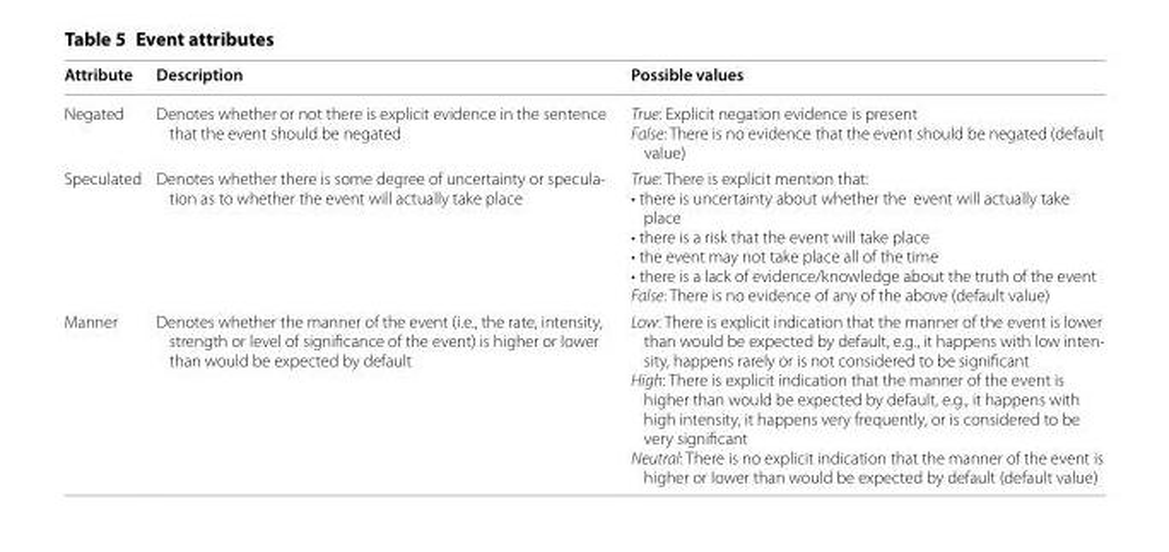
<table><thead><tr><td>Attribute</td><td>Description</td><td>Possible values</td></tr></thead><tbody><tr><td>Negated</td><td>Denotes whether or not there is explicit evidence in the sentence that the event should be negated</td><td>True: Explicit negation evidence is present False: There is no evidence that the event should be negated (default value)</td></tr><tr><td>Speculated</td><td>Denotes whether there is some degree of uncertainty or specula‑ tion as to whether the event will actually take place</td><td>True: There is explicit mention that: • there is uncertainty about whether the event will actually take place • there is a risk that the event will take place • the event may not take place all of the time • there is a lack of evidence/knowledge about the truth of the event False: There is no evidence of any of the above (default value)</td></tr><tr><td>Manner</td><td>Denotes whether the manner of the event (i.e., the rate, intensity, strength or level of significance of the event) is higher or lower than would be expected by default</td><td>Low: There is explicit indication that the manner of the event is lower than would be expected by default, e.g., it happens with low inten‑ sity, happens rarely or is not considered to be significant High: There is explicit indication that the manner of the event is higher than would be expected by default, e.g., it happens with high intensity, it happens very frequently, or is considered to be very significant Neutral: There is no explicit indication that the manner of the event is higher or lower than would be expected by default (default value)</td></tr></tbody></table>